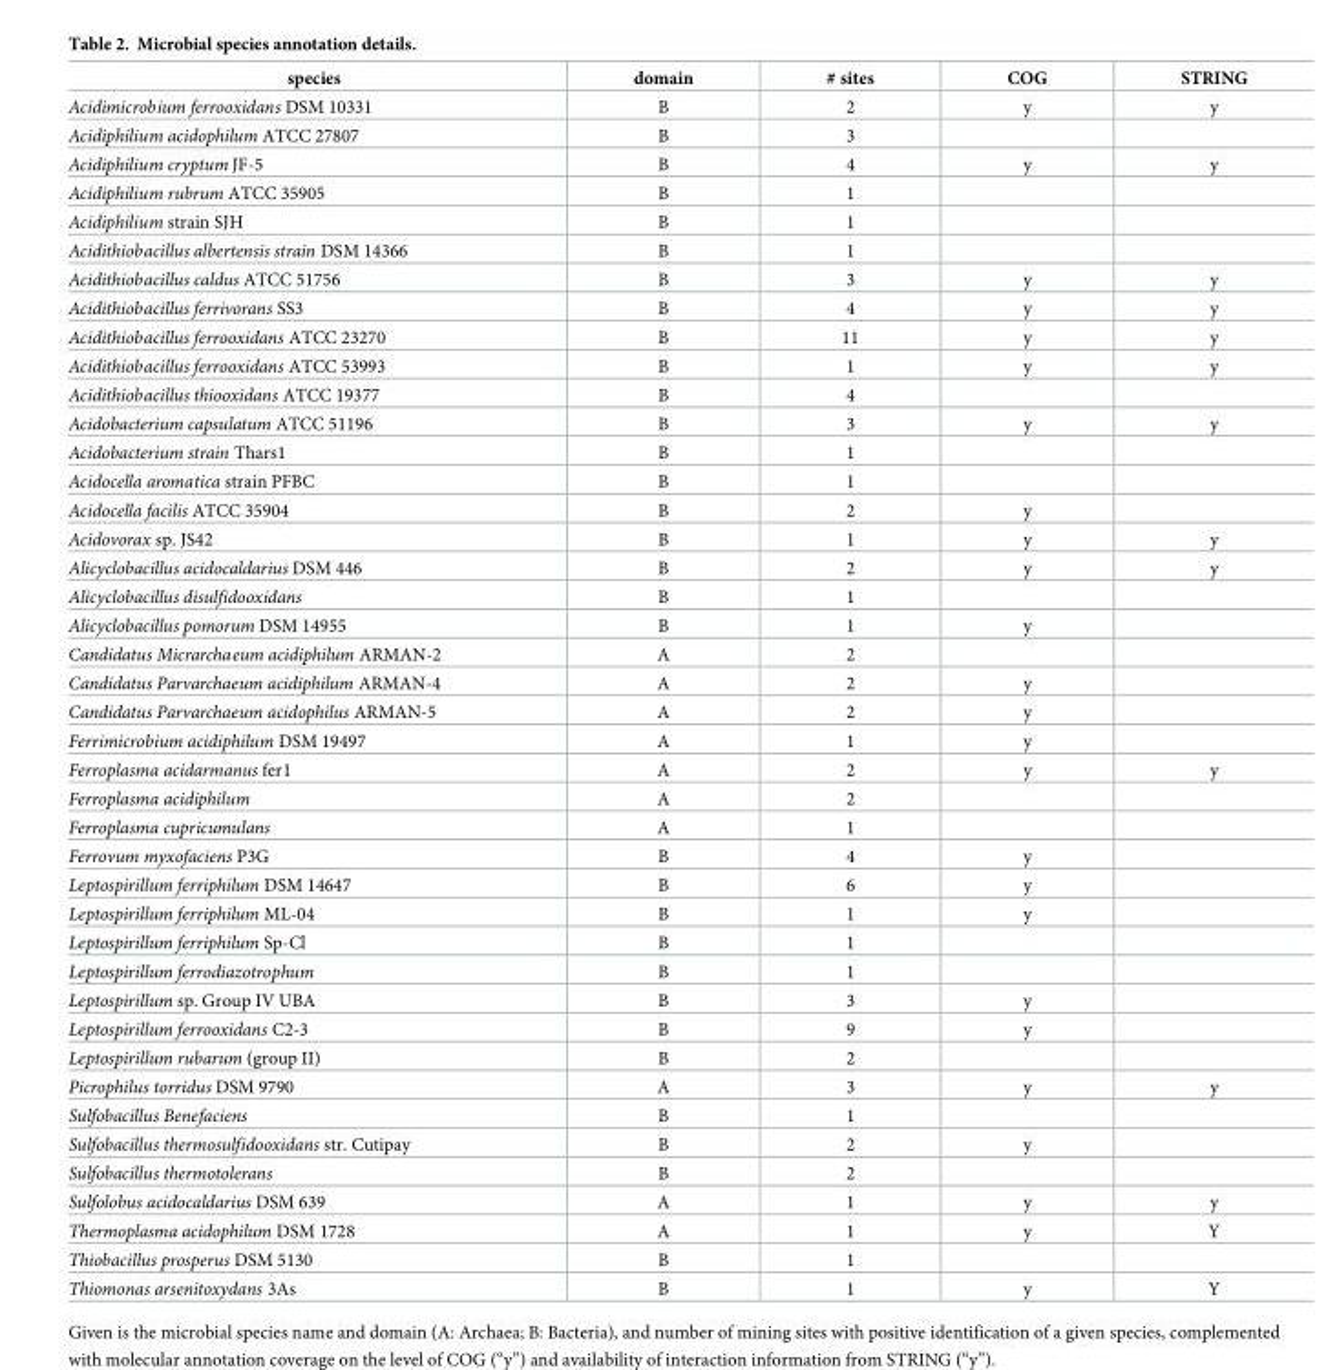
<table><thead><tr><td>species</td><td>domain</td><td># sites</td><td>COG</td><td>STRING</td></tr></thead><tbody><tr><td>Acidimicrobium ferrooxidans DSM 10331</td><td>B</td><td>2</td><td>y</td><td>y</td></tr><tr><td>Acidiphilium acidophilum ATCC 27807</td><td>B</td><td>3</td><td></td><td></td></tr><tr><td>Acidiphilium cryptum JF-5</td><td>B</td><td>4</td><td>y</td><td>y</td></tr><tr><td>Acidiphilium rubrum ATCC 35905</td><td>B</td><td>1</td><td></td><td></td></tr><tr><td>Acidiphilium strain SJH</td><td>B</td><td>1</td><td></td><td></td></tr><tr><td>Acidithiobacillus albertensis strain DSM 14366</td><td>B</td><td>1</td><td></td><td></td></tr><tr><td>Acidithiobacillus caldus ATCC 51756</td><td>B</td><td>3</td><td>y</td><td>y</td></tr><tr><td>Acidithiobacillus ferrivorans SS3</td><td>B</td><td>4</td><td>y</td><td>y</td></tr><tr><td>Acidithiobacillus ferrooxidans ATCC 23270</td><td>B</td><td>11</td><td>y</td><td>y</td></tr><tr><td>Acidithiobacillus ferrooxidans ATCC 53993</td><td>B</td><td>1</td><td>y</td><td>y</td></tr><tr><td>Acidithiobacillus thiooxidans ATCC 19377</td><td>B</td><td>4</td><td></td><td></td></tr><tr><td>Acidobacterium capsulatum ATCC 51196</td><td>B</td><td>3</td><td>y</td><td>y</td></tr><tr><td>Acidobacterium strain Thars1</td><td>B</td><td>1</td><td></td><td></td></tr><tr><td>Acidocella aromatica strain PFBC</td><td>B</td><td>1</td><td></td><td></td></tr><tr><td>Acidocella facilis ATCC 35904</td><td>B</td><td>2</td><td>y</td><td></td></tr><tr><td>Acidovorax sp. JS42</td><td>B</td><td>1</td><td>y</td><td>y</td></tr><tr><td>Alicyclobacillus acidocaldarius DSM 446</td><td>B</td><td>2</td><td>y</td><td>y</td></tr><tr><td>Alicyclobacillus disulfidooxidans</td><td>B</td><td>1</td><td></td><td></td></tr><tr><td>Alicyclobacillus pomorum DSM 14955</td><td>B</td><td>1</td><td>y</td><td></td></tr><tr><td>Candidatus Micrarchaeum acidiphilum ARMAN-2</td><td>A</td><td>2</td><td></td><td></td></tr><tr><td>Candidatus Parvarchaeum acidiphilum ARMAN-4</td><td>A</td><td>2</td><td>y</td><td></td></tr><tr><td>Candidatus Parvarchaeum acidophilus ARMAN-5</td><td>A</td><td>2</td><td>y</td><td></td></tr><tr><td>Ferrimicrobium acidiphilum DSM 19497</td><td>A</td><td>1</td><td>y</td><td></td></tr><tr><td>Ferroplasma acidarmanus fer1</td><td>A</td><td>2</td><td>y</td><td>y</td></tr><tr><td>Ferroplasma acidiphilum</td><td>A</td><td>2</td><td></td><td></td></tr><tr><td>Ferroplasma cupricumulans</td><td>A</td><td>1</td><td></td><td></td></tr><tr><td>Ferrovum myxofaciens P3G</td><td>B</td><td>4</td><td>y</td><td></td></tr><tr><td>Leptospirillum ferriphilum DSM 14647</td><td>B</td><td>6</td><td>y</td><td></td></tr><tr><td>Leptospirillum ferriphilum ML-04</td><td>B</td><td>1</td><td>y</td><td></td></tr><tr><td>Leptospirillum ferriphilum Sp-Cl</td><td>B</td><td>1</td><td></td><td></td></tr><tr><td>Leptospirillum ferrodiazotrophum</td><td>B</td><td>1</td><td></td><td></td></tr><tr><td>Leptospirillum sp. Group IV UBA</td><td>B</td><td>3</td><td>y</td><td></td></tr><tr><td>Leptospirillum ferrooxidans C2-3</td><td>B</td><td>9</td><td>y</td><td></td></tr><tr><td>Leptospirillum rubarum (group II)</td><td>B</td><td>2</td><td></td><td></td></tr><tr><td>Picrophilus torridus DSM 9790</td><td>A</td><td>3</td><td>y</td><td>y</td></tr><tr><td>Sulfobacillus Benefaciens</td><td>B</td><td>1</td><td></td><td></td></tr><tr><td>Sulfobacillus thermosulfidooxidans str. Cutipay</td><td>B</td><td>2</td><td>y</td><td></td></tr><tr><td>Sulfobacillus thermotolerans</td><td>B</td><td>2</td><td></td><td></td></tr><tr><td>Sulfolobus acidocaldarius DSM 639</td><td>A</td><td>1</td><td>y</td><td>y</td></tr><tr><td>Thermoplasma acidophilum DSM 1728</td><td>A</td><td>1</td><td>y</td><td>Y</td></tr><tr><td>Thiobacillus prosperus DSM 5130</td><td>B</td><td>1</td><td></td><td></td></tr><tr><td>Thiomonas arsenitoxydans 3As</td><td>B</td><td>1</td><td>y</td><td>Y</td></tr></tbody></table>